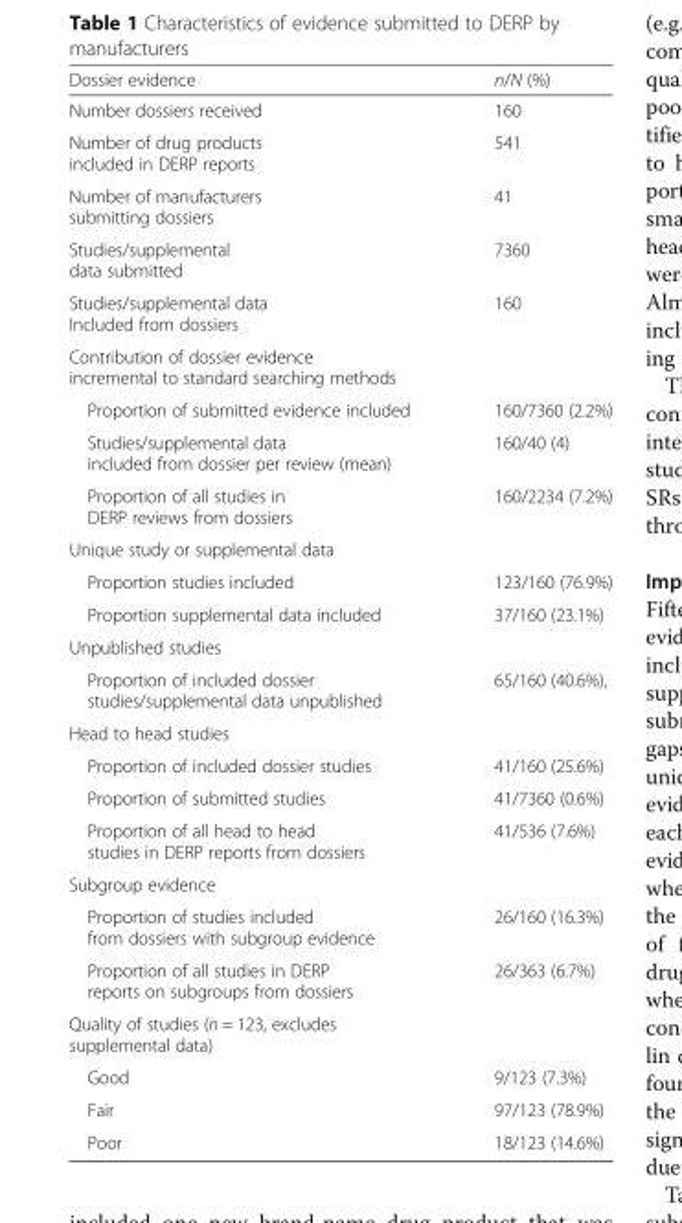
<table><thead><tr><td>Dossier evidence</td><td>n/N (%)</td></tr></thead><tbody><tr><td>Number dossiers received</td><td>160</td></tr><tr><td>Number of drug products included in DERP reports</td><td>541</td></tr><tr><td>Number of manufacturers submitting dossiers</td><td>41</td></tr><tr><td>Studies/supplemental data submitted</td><td>7360</td></tr><tr><td>Studies/supplemental data Included from dossiers</td><td>160</td></tr><tr><td colspan="2">Contribution of dossier evidence incremental to standard searching methods</td></tr><tr><td>Proportion of submitted evidence included</td><td>160/7360 (2.2%)</td></tr><tr><td>Studies/supplemental data included from dossier per review (mean)</td><td>160/40 (4)</td></tr><tr><td>Proportion of all studies in DERP reviews from dossiers</td><td>160/2234 (7.2%)</td></tr><tr><td colspan="2">Unique study or supplemental data</td></tr><tr><td>Proportion studies included</td><td>123/160 (76.9%)</td></tr><tr><td>Proportion supplemental data included</td><td>37/160 (23.1%)</td></tr><tr><td colspan="2">Unpublished studies</td></tr><tr><td>Proportion of included dossier studies/supplemental data unpublished</td><td>65/160 (40.6%),</td></tr><tr><td colspan="2">Head to head studies</td></tr><tr><td>Proportion of included dossier studies</td><td>41/160 (25.6%)</td></tr><tr><td>Proportion of submitted studies</td><td>41/7360 (0.6%)</td></tr><tr><td>Proportion of all head to head studies in DERP reports from dossiers</td><td>41/536 (7.6%)</td></tr><tr><td colspan="2">Subgroup evidence</td></tr><tr><td>Proportion of studies included from dossiers with subgroup evidence</td><td>26/160 (16.3%)</td></tr><tr><td>Proportion of all studies in DERP reports on subgroups from dossiers</td><td>26/363 (6.7%)</td></tr><tr><td colspan="2">Quality of studies (n = 123, excludes supplemental data)</td></tr><tr><td>Good</td><td>9/123 (7.3%)</td></tr><tr><td>Fair</td><td>97/123 (78.9%)</td></tr><tr><td>Poor</td><td>18/123 (14.6%)</td></tr></tbody></table>